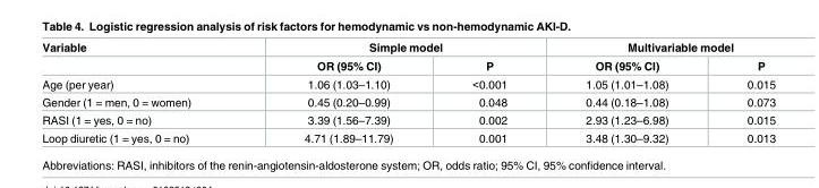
<table><thead><tr><td rowspan="2">Variable</td><td colspan="2">Simple model</td><td colspan="2">Multivariable model</td></tr><tr><td>OR (95% CI)</td><td>P</td><td>OR (95% CI)</td><td>P</td></tr></thead><tbody><tr><td>Age (per year)</td><td>1.06 (1.03–1.10)</td><td>&lt;0.001</td><td>1.05 (1.01–1.08)</td><td>0.015</td></tr><tr><td>Gender (1 = men, 0 = women)</td><td>0.45 (0.20–0.99)</td><td>0.048</td><td>0.44 (0.18–1.08)</td><td>0.073</td></tr><tr><td>RASI (1 = yes, 0 = no)</td><td>3.39 (1.56–7.39)</td><td>0.002</td><td>2.93 (1.23–6.98)</td><td>0.015</td></tr><tr><td>Loop diuretic (1 = yes, 0 = no)</td><td>4.71 (1.89–11.79)</td><td>0.001</td><td>3.48 (1.30–9.32)</td><td>0.013</td></tr></tbody></table>